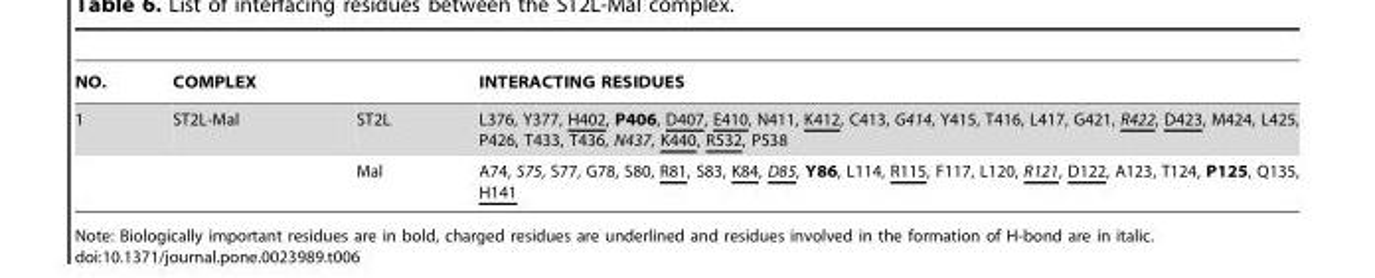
<table><thead><tr><td rowspan="2">NO. 1</td><td colspan="2">COMPLEX</td><td rowspan="2">INTERACTING RESIDUES L376, Y377, H402, P406, D407, E410, N411, K412, C413, G414, Y415, T416, L417, G421, R422, D423, M424, L425, P426, T433, T436, N437, K440, R532, P538</td></tr><tr><td>ST2L-Mal</td><td>ST2L</td></tr></thead><tbody><tr><td></td><td></td><td>Mal</td><td>A74, S75, S77, G78, S80, R81, S83, K84, D85, Y86, L114, R115, F117, L120, R121, D122, A123, T124, P125, Q135, H141</td></tr></tbody></table>